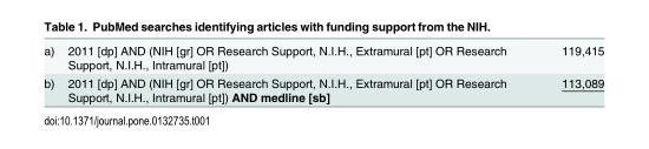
<table><tbody><tr><td>a)</td><td>2011 [dp] AND (NIH [gr] OR Research Support, N.I.H., Extramural [pt] OR Research Support, N.I.H., Intramural [pt])</td><td>119,415</td></tr><tr><td>b)</td><td>2011 [dp] AND (NIH [gr] OR Research Support, N.I.H., Extramural [pt] OR Research Support, N.I.H., Intramural [pt]) AND medline [sb]</td><td>113,089</td></tr></tbody></table>